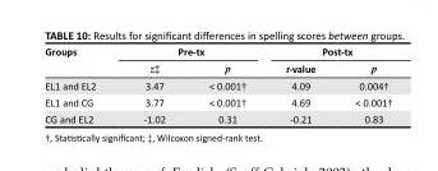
<table><thead><tr><td rowspan="2">Groups</td><td colspan="2">Pre-tx</td><td colspan="2">Post-tx</td></tr><tr><td>z‡</td><td>p</td><td>t-value</td><td>p</td></tr></thead><tbody><tr><td>EL1 and EL2</td><td>3.47</td><td>&lt; 0.001†</td><td>4.09</td><td>0.004†</td></tr><tr><td>EL1 and CG</td><td>3.77</td><td>&lt; 0.001†</td><td>4.69</td><td>&lt; 0.001†</td></tr><tr><td>CG and EL2</td><td>-1.02</td><td>0.31</td><td>-0.21</td><td>0.83</td></tr></tbody></table>